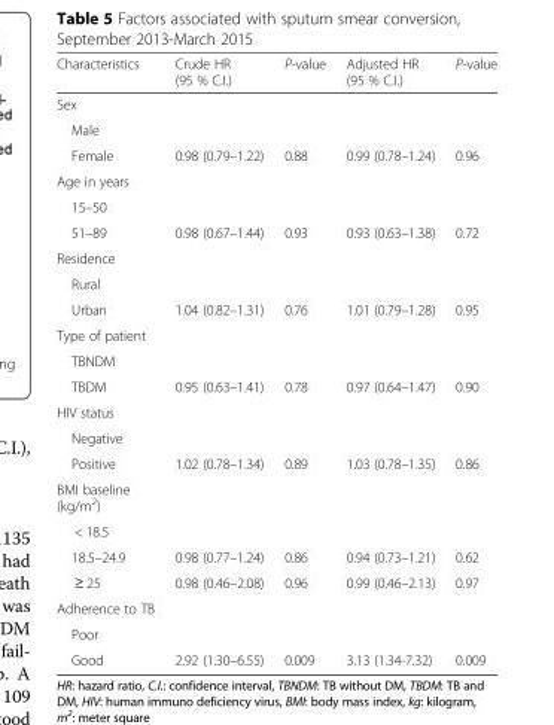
<table><thead><tr><td>Characteristics</td><td>Crude HR (95 % C.I.)</td><td>P-value</td><td>Adjusted HR (95 % C.I.)</td><td>P-value</td></tr></thead><tbody><tr><td colspan="5">Sex</td></tr><tr><td colspan="5">Male</td></tr><tr><td>Female</td><td>0.98 (0.79–1.22)</td><td>0.88</td><td>0.99 (0.78–1.24)</td><td>0.96</td></tr><tr><td colspan="5">Age in years</td></tr><tr><td colspan="5">15–50</td></tr><tr><td>51–89</td><td>0.98 (0.67–1.44)</td><td>0.93</td><td>0.93 (0.63–1.38)</td><td>0.72</td></tr><tr><td colspan="5">Residence</td></tr><tr><td colspan="5">Rural</td></tr><tr><td>Urban</td><td>1.04 (0.82–1.31)</td><td>0.76</td><td>1.01 (0.79–1.28)</td><td>0.95</td></tr><tr><td colspan="5">Type of patient</td></tr><tr><td colspan="5">TBNDM</td></tr><tr><td>TBDM</td><td>0.95 (0.63–1.41)</td><td>0.78</td><td>0.97 (0.64–1.47)</td><td>0.90</td></tr><tr><td colspan="5">HIV status</td></tr><tr><td colspan="5">Negative</td></tr><tr><td>Positive</td><td>1.02 (0.78–1.34)</td><td>0.89</td><td>1.03 (0.78–1.35)</td><td>0.86</td></tr><tr><td colspan="5">BMI baseline (kg/m<sup>2</sup>)</td></tr><tr><td colspan="5">&lt; 18.5</td></tr><tr><td>18.5–24.9</td><td>0.98 (0.77–1.24)</td><td>0.86</td><td>0.94 (0.73–1.21)</td><td>0.62</td></tr><tr><td>≥ 25</td><td>0.98 (0.46–2.08)</td><td>0.96</td><td>0.99 (0.46–2.13)</td><td>0.97</td></tr><tr><td colspan="5">Adherence to TB</td></tr><tr><td colspan="5">Poor</td></tr><tr><td>Good</td><td>2.92 (1.30–6.55)</td><td>0.009</td><td>3.13 (1.34-7.32)</td><td>0.009</td></tr></tbody></table>